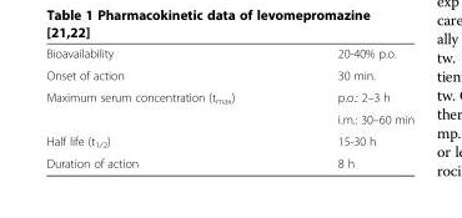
<table><tbody><tr><td>Bioavailability</td><td>20-40% p.o.</td></tr><tr><td>Onset of action</td><td>30 min.</td></tr><tr><td rowspan="2">Maximum serum concentration (t<sub>max</sub>)</td><td>p.o.: 2–3 h</td></tr><tr><td>i.m.: 30–60 min</td></tr><tr><td>Half life (t<sub>1/2</sub>)</td><td>15-30 h</td></tr><tr><td>Duration of action</td><td>8 h</td></tr></tbody></table>